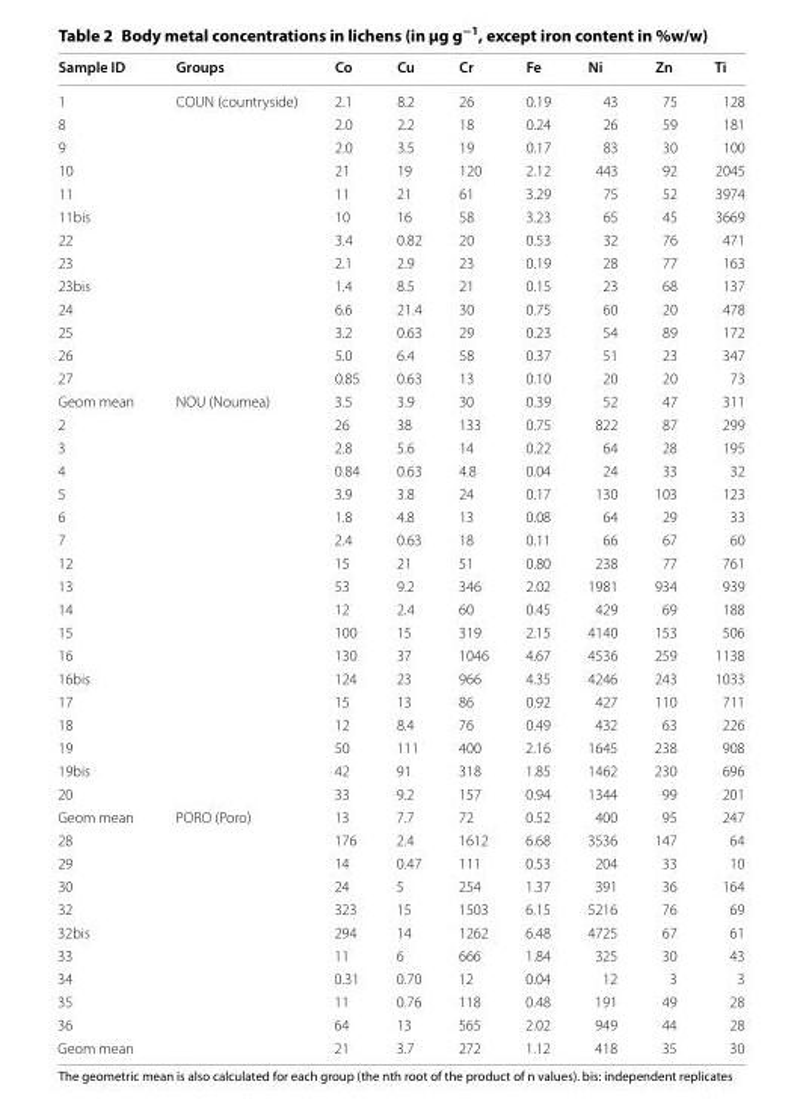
<table><thead><tr><td>Sample ID</td><td>Groups</td><td>Co</td><td>Cu</td><td>Cr</td><td>Fe</td><td>Ni</td><td>Zn</td><td>Ti</td></tr></thead><tbody><tr><td>1</td><td rowspan="13">COUN (countryside)</td><td>2.1</td><td>8.2</td><td>26</td><td>0.19</td><td>43</td><td>75</td><td>128</td></tr><tr><td>8</td><td>2.0</td><td>2.2</td><td>18</td><td>0.24</td><td>26</td><td>59</td><td>181</td></tr><tr><td>9</td><td>2.0</td><td>3.5</td><td>19</td><td>0.17</td><td>83</td><td>30</td><td>100</td></tr><tr><td>10</td><td>21</td><td>19</td><td>120</td><td>2.12</td><td>443</td><td>92</td><td>2045</td></tr><tr><td>11</td><td>11</td><td>21</td><td>61</td><td>3.29</td><td>75</td><td>52</td><td>3974</td></tr><tr><td>11bis</td><td>10</td><td>16</td><td>58</td><td>3.23</td><td>65</td><td>45</td><td>3669</td></tr><tr><td>22</td><td>3.4</td><td>0.82</td><td>20</td><td>0.53</td><td>32</td><td>76</td><td>471</td></tr><tr><td>23</td><td>2.1</td><td>2.9</td><td>23</td><td>0.19</td><td>28</td><td>77</td><td>163</td></tr><tr><td>23bis</td><td>1.4</td><td>8.5</td><td>21</td><td>0.15</td><td>23</td><td>68</td><td>137</td></tr><tr><td>24</td><td>6.6</td><td>21.4</td><td>30</td><td>0.75</td><td>60</td><td>20</td><td>478</td></tr><tr><td>25</td><td>3.2</td><td>0.63</td><td>29</td><td>0.23</td><td>54</td><td>89</td><td>172</td></tr><tr><td>26</td><td>5.0</td><td>6.4</td><td>58</td><td>0.37</td><td>51</td><td>23</td><td>347</td></tr><tr><td>27</td><td>0.85</td><td>0.63</td><td>13</td><td>0.10</td><td>20</td><td>20</td><td>73</td></tr><tr><td>Geom mean</td><td rowspan="18">NOU (Noumea)</td><td>3.5</td><td>3.9</td><td>30</td><td>0.39</td><td>52</td><td>47</td><td>311</td></tr><tr><td>2</td><td>26</td><td>38</td><td>133</td><td>0.75</td><td>822</td><td>87</td><td>299</td></tr><tr><td>3</td><td>2.8</td><td>5.6</td><td>14</td><td>0.22</td><td>64</td><td>28</td><td>195</td></tr><tr><td>4</td><td>0.84</td><td>0.63</td><td>4.8</td><td>0.04</td><td>24</td><td>33</td><td>32</td></tr><tr><td>5</td><td>3.9</td><td>3.8</td><td>24</td><td>0.17</td><td>130</td><td>103</td><td>123</td></tr><tr><td>6</td><td>1.8</td><td>4.8</td><td>13</td><td>0.08</td><td>64</td><td>29</td><td>33</td></tr><tr><td>7</td><td>2.4</td><td>0.63</td><td>18</td><td>0.11</td><td>66</td><td>67</td><td>60</td></tr><tr><td>12</td><td>15</td><td>21</td><td>51</td><td>0.80</td><td>238</td><td>77</td><td>761</td></tr><tr><td>13</td><td>53</td><td>9.2</td><td>346</td><td>2.02</td><td>1981</td><td>934</td><td>939</td></tr><tr><td>14</td><td>12</td><td>2.4</td><td>60</td><td>0.45</td><td>429</td><td>69</td><td>188</td></tr><tr><td>15</td><td>100</td><td>15</td><td>319</td><td>2.15</td><td>4140</td><td>153</td><td>506</td></tr><tr><td>16</td><td>130</td><td>37</td><td>1046</td><td>4.67</td><td>4536</td><td>259</td><td>1138</td></tr><tr><td>16bis</td><td>124</td><td>23</td><td>966</td><td>4.35</td><td>4246</td><td>243</td><td>1033</td></tr><tr><td>17</td><td>15</td><td>13</td><td>86</td><td>0.92</td><td>427</td><td>110</td><td>711</td></tr><tr><td>18</td><td>12</td><td>8.4</td><td>76</td><td>0.49</td><td>432</td><td>63</td><td>226</td></tr><tr><td>19</td><td>50</td><td>111</td><td>400</td><td>2.16</td><td>1645</td><td>238</td><td>908</td></tr><tr><td>19bis</td><td>42</td><td>91</td><td>318</td><td>1.85</td><td>1462</td><td>230</td><td>696</td></tr><tr><td>20</td><td>33</td><td>9.2</td><td>157</td><td>0.94</td><td>1344</td><td>99</td><td>201</td></tr><tr><td>Geom mean</td><td rowspan="11">PORO (Poro)</td><td>13</td><td>7.7</td><td>72</td><td>0.52</td><td>400</td><td>95</td><td>247</td></tr><tr><td>28</td><td>176</td><td>2.4</td><td>1612</td><td>6.68</td><td>3536</td><td>147</td><td>64</td></tr><tr><td>29</td><td>14</td><td>0.47</td><td>111</td><td>0.53</td><td>204</td><td>33</td><td>10</td></tr><tr><td>30</td><td>24</td><td>5</td><td>254</td><td>1.37</td><td>391</td><td>36</td><td>164</td></tr><tr><td>32</td><td>323</td><td>15</td><td>1503</td><td>6.15</td><td>5216</td><td>76</td><td>69</td></tr><tr><td>32bis</td><td>294</td><td>14</td><td>1262</td><td>6.48</td><td>4725</td><td>67</td><td>61</td></tr><tr><td>33</td><td>11</td><td>6</td><td>666</td><td>1.84</td><td>325</td><td>30</td><td>43</td></tr><tr><td>34</td><td>0.31</td><td>0.70</td><td>12</td><td>0.04</td><td>12</td><td>3</td><td>3</td></tr><tr><td>35</td><td>11</td><td>0.76</td><td>118</td><td>0.48</td><td>191</td><td>49</td><td>28</td></tr><tr><td>36</td><td>64</td><td>13</td><td>565</td><td>2.02</td><td>949</td><td>44</td><td>28</td></tr><tr><td>Geom mean</td><td>21</td><td>3.7</td><td>272</td><td>1.12</td><td>418</td><td>35</td><td>30</td></tr></tbody></table>